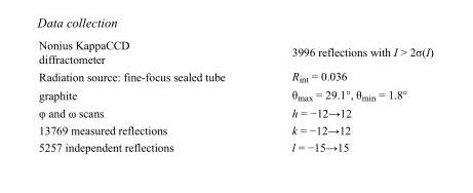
<table><tbody><tr><td>Nonius KappaCCD diffractometer</td><td>3996 reflections with I &gt; 2σ(I)</td></tr><tr><td>Radiation source: fine-focus sealed tube</td><td>R<sub>int</sub> = 0.036</td></tr><tr><td>graphite</td><td>θ<sub>max</sub> = 29.1°, θ<sub>min</sub> = 1.8°</td></tr><tr><td>φ and ω scans</td><td>h = −12→12</td></tr><tr><td>13769 measured reflections</td><td>k = −12→12</td></tr><tr><td>5257 independent reflections</td><td>l = −15→15</td></tr></tbody></table>